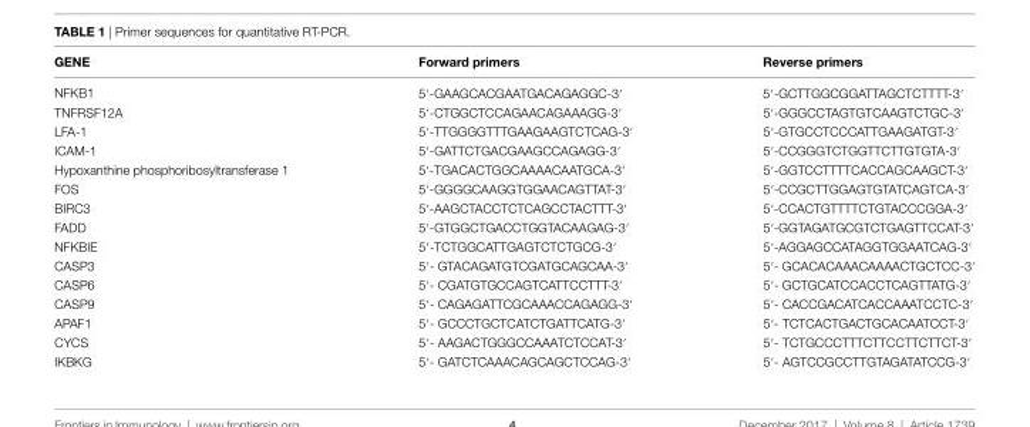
<table><thead><tr><td>gene</td><td>Forward primers</td><td>reverse primers</td></tr></thead><tbody><tr><td>NFKB1</td><td>5′-GAAGCACGAATGACAGAGGC-3′</td><td>5′-GCTTGGCGGATTAGCTCTTTT-3′</td></tr><tr><td>TNFRSF12A</td><td>5′-CTGGCTCCAGAACAGAAAGG-3′</td><td>5′-GGGCCTAGTGTCAAGTCTGC-3′</td></tr><tr><td>LFA-1</td><td>5′-TTGGGGTTTGAAGAAGTCTCAG-3′</td><td>5′-GTGCCTCCCATTGAAGATGT-3′</td></tr><tr><td>ICAM-1</td><td>5′-GATTCTGACGAAGCCAGAGG-3′</td><td>5′-CCGGGTCTGGTTCTTGTGTA-3′</td></tr><tr><td>Hypoxanthine phosphoribosyltransferase 1</td><td>5′-TGACACTGGCAAAACAATGCA-3′</td><td>5′-GGTCCTTTTCACCAGCAAGCT-3′</td></tr><tr><td>FOS</td><td>5′-GGGGCAAGGTGGAACAGTTAT-3′</td><td>5′-CCGCTTGGAGTGTATCAGTCA-3′</td></tr><tr><td>BIRC3</td><td>5′-AAGCTACCTCTCAGCCTACTTT-3′</td><td>5′-CCACTGTTTTCTGTACCCGGA-3′</td></tr><tr><td>FADD</td><td>5′-GTGGCTGACCTGGTACAAGAG-3′</td><td>5′-GGTAGATGCGTCTGAGTTCCAT-3′</td></tr><tr><td>NFKBIE</td><td>5′-TCTGGCATTGAGTCTCTGCG-3′</td><td>5′-AGGAGCCATAGGTGGAATCAG-3′</td></tr><tr><td>CASP3</td><td>5′- GTACAGATGTCGATGCAGCAA-3′</td><td>5′- GCACACAAACAAAACTGCTCC-3′</td></tr><tr><td>CASP6</td><td>5′- CGATGTGCCAGTCATTCCTTT-3′</td><td>5′- GCTGCATCCACCTCAGTTATG-3′</td></tr><tr><td>CASP9</td><td>5′- CAGAGATTCGCAAACCAGAGG-3′</td><td>5′- CACCGACATCACCAAATCCTC-3′</td></tr><tr><td>APAF1</td><td>5′- GCCCTGCTCATCTGATTCATG-3′</td><td>5′- TCTCACTGACTGCACAATCCT-3′</td></tr><tr><td>CYCS</td><td>5′- AAGACTGGGCCAAATCTCCAT-3′</td><td>5′- TCTGCCCTTTCTTCCTTCTTCT-3′</td></tr><tr><td>IKBKG</td><td>5′- GATCTCAAACAGCAGCTCCAG-3′</td><td>5′- AGTCCGCCTTGTAGATATCCG-3′</td></tr></tbody></table>